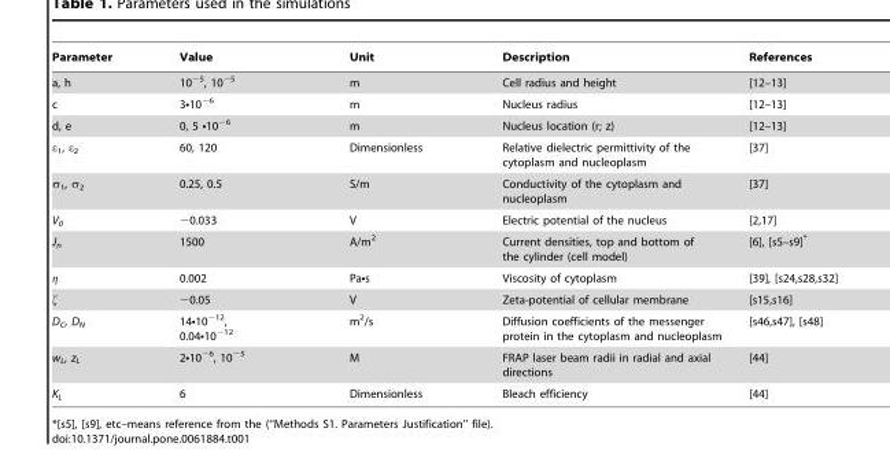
<table><thead><tr><td>Parameter</td><td>Value</td><td>Unit</td><td>Description</td><td>References</td></tr></thead><tbody><tr><td>a, h</td><td>10<sup>−5</sup>, 10<sup>−5</sup></td><td>m</td><td>Cell radius and height</td><td>[12–13]</td></tr><tr><td>c</td><td>3•10<sup>−6</sup></td><td>m</td><td>Nucleus radius</td><td>[12–13]</td></tr><tr><td>d, e</td><td>0, 5 •10<sup>−6</sup></td><td>m</td><td>Nucleus location (r; z)</td><td>[12–13]</td></tr><tr><td>ε<sub>1</sub>, ε<sub>2</sub></td><td>60, 120</td><td>Dimensionless</td><td>Relative dielectric permittivity of the cytoplasm and nucleoplasm</td><td>[37]</td></tr><tr><td>σ<sub>1</sub>, σ<sub>2</sub></td><td>0.25, 0.5</td><td>S/m</td><td>Conductivity of the cytoplasm and nucleoplasm</td><td>[37]</td></tr><tr><td>V<sub>0</sub></td><td>−0.033</td><td>V</td><td>Electric potential of the nucleus</td><td>[2,17]</td></tr><tr><td>J<sub>n</sub></td><td>1500</td><td>A/m<sup>2</sup></td><td>Current densities, top and bottom of the cylinder (cell model)</td><td>[6], [s5–s9]*</td></tr><tr><td>η</td><td>0.002</td><td>Pa•s</td><td>Viscosity of cytoplasm</td><td>[39], [s24,s28,s32]</td></tr><tr><td>ζ</td><td>−0.05</td><td>V</td><td>Zeta-potential of cellular membrane</td><td>[s15,s16]</td></tr><tr><td>D<sub>C</sub>, D<sub>N</sub></td><td>14•10<sup>−12</sup>, 0.04•10<sup>−12</sup></td><td>m<sup>2</sup>/s</td><td>Diffusion coefficients of the messenger protein in the cytoplasm and nucleoplasm</td><td>[s46,s47], [s48]</td></tr><tr><td>w<sub>L</sub>, z<sub>L</sub></td><td>2•10<sup>−6</sup>, 10<sup>−5</sup></td><td>M</td><td>FRAP laser beam radii in radial and axial directions</td><td>[44]</td></tr><tr><td>K<sub>L</sub></td><td>6</td><td>Dimensionless</td><td>Bleach efficiency</td><td>[44]</td></tr></tbody></table>